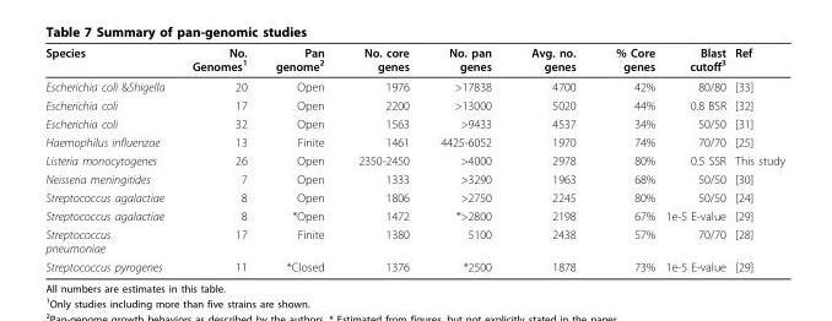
<table><thead><tr><td>Species</td><td>No. Genomes<sup>1</sup></td><td>Pan genome<sup>2</sup></td><td>No. core genes</td><td>No. pan genes</td><td>Avg. no. genes</td><td>% Core genes</td><td>Blast cutoff<sup>3</sup></td><td>Ref</td></tr></thead><tbody><tr><td>Escherichia coli &amp;Shigella</td><td>20</td><td>Open</td><td>1976</td><td>&gt;17838</td><td>4700</td><td>42%</td><td>80/80</td><td>[33]</td></tr><tr><td>Escherichia coli</td><td>17</td><td>Open</td><td>2200</td><td>&gt;13000</td><td>5020</td><td>44%</td><td>0.8 BSR</td><td>[32]</td></tr><tr><td>Escherichia coli</td><td>32</td><td>Open</td><td>1563</td><td>&gt;9433</td><td>4537</td><td>34%</td><td>50/50</td><td>[31]</td></tr><tr><td>Haemophilus influenzae</td><td>13</td><td>Finite</td><td>1461</td><td>4425-6052</td><td>1970</td><td>74%</td><td>70/70</td><td>[25]</td></tr><tr><td>Listeria monocytogenes</td><td>26</td><td>Open</td><td>2350-2450</td><td>&gt;4000</td><td>2978</td><td>80%</td><td>0.5 SSR</td><td>This study</td></tr><tr><td>Neisseria meningitides</td><td>7</td><td>Open</td><td>1333</td><td>&gt;3290</td><td>1963</td><td>68%</td><td>50/50</td><td>[30]</td></tr><tr><td>Streptococcus agalactiae</td><td>8</td><td>Open</td><td>1806</td><td>&gt;2750</td><td>2245</td><td>80%</td><td>50/50</td><td>[24]</td></tr><tr><td>Streptococcus agalactiae</td><td>8</td><td>*Open</td><td>1472</td><td>*&gt;2800</td><td>2198</td><td>67%</td><td>1e-5 E-value</td><td>[29]</td></tr><tr><td>Streptococcus pneumoniae</td><td>17</td><td>Finite</td><td>1380</td><td>5100</td><td>2438</td><td>57%</td><td>70/70</td><td>[28]</td></tr><tr><td>Streptococcus pyrogenes</td><td>11</td><td>*Closed</td><td>1376</td><td>*2500</td><td>1878</td><td>73%</td><td>1e-5 E-value</td><td>[29]</td></tr></tbody></table>